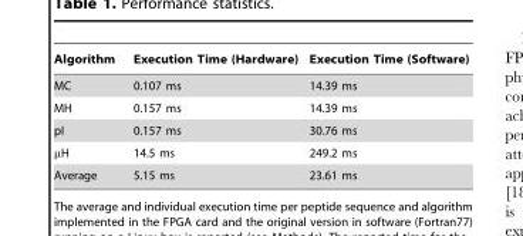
<table><thead><tr><td>Algorithm</td><td>Execution Time (Hardware)</td><td>Execution Time (Software)</td></tr></thead><tbody><tr><td>MC</td><td>0.107 ms</td><td>14.39 ms</td></tr><tr><td>MH</td><td>0.157 ms</td><td>14.39 ms</td></tr><tr><td>pI</td><td>0.157 ms</td><td>30.76 ms</td></tr><tr><td>μH</td><td>14.5 ms</td><td>249.2 ms</td></tr><tr><td>Average</td><td>5.15 ms</td><td>23.61 ms</td></tr></tbody></table>